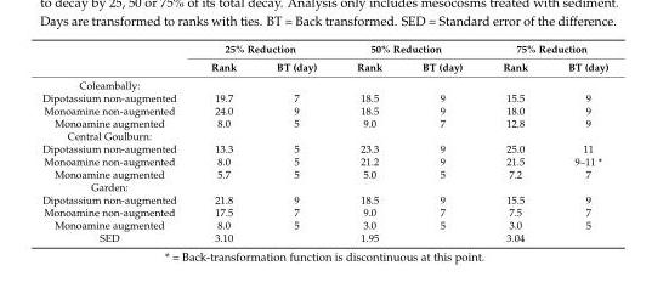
<table><thead><tr><td rowspan="2"></td><td colspan="2">25% Reduction</td><td colspan="2">50% Reduction</td><td colspan="2">75% Reduction</td></tr><tr><td>Rank</td><td>BT (day)</td><td>Rank</td><td>BT (day)</td><td>Rank</td><td>BT (day)</td></tr></thead><tbody><tr><td colspan="7">Coleambally:</td></tr><tr><td>Dipotassium non-augmented</td><td>19.7</td><td>7</td><td>18.5</td><td>9</td><td>15.5</td><td>9</td></tr><tr><td>Monoamine non-augmented</td><td>24.0</td><td>9</td><td>18.5</td><td>9</td><td>18.0</td><td>9</td></tr><tr><td>Monoamine augmented</td><td>8.0</td><td>5</td><td>9.0</td><td>7</td><td>12.8</td><td>9</td></tr><tr><td colspan="7">Central Goulburn:</td></tr><tr><td>Dipotassium non-augmented</td><td>13.3</td><td>5</td><td>23.3</td><td>9</td><td>25.0</td><td>11</td></tr><tr><td>Monoamine non-augmented</td><td>8.0</td><td>5</td><td>21.2</td><td>9</td><td>21.5</td><td>9–11 *</td></tr><tr><td>Monoamine augmented</td><td>5.7</td><td>5</td><td>5.0</td><td>5</td><td>7.2</td><td>7</td></tr><tr><td colspan="7">Garden:</td></tr><tr><td>Dipotassium non-augmented</td><td>21.8</td><td>9</td><td>18.5</td><td>9</td><td>15.5</td><td>9</td></tr><tr><td>Monoamine non-augmented</td><td>17.5</td><td>7</td><td>9.0</td><td>7</td><td>7.5</td><td>7</td></tr><tr><td>Monoamine augmented</td><td>8.0</td><td>5</td><td>3.0</td><td>5</td><td>3.0</td><td>5</td></tr><tr><td>SED</td><td>3.10</td><td></td><td>1.95</td><td></td><td>3.04</td><td></td></tr></tbody></table>